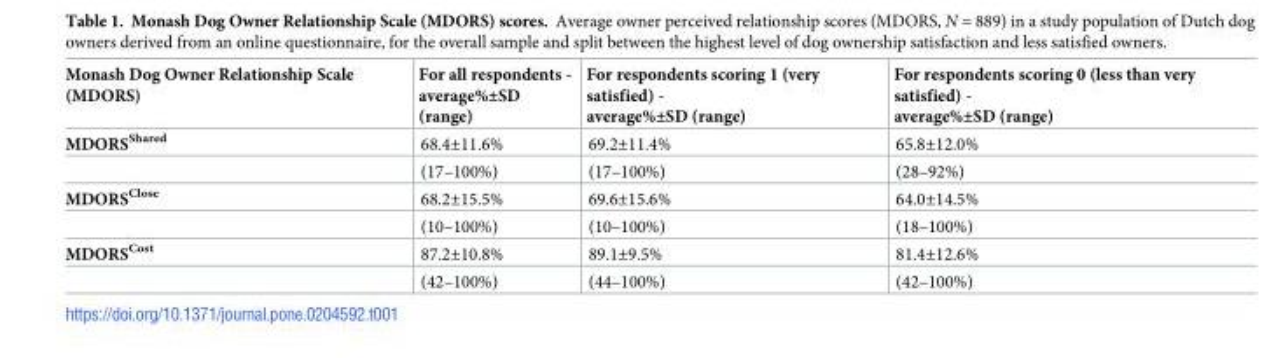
<table><thead><tr><td>Monash Dog Owner Relationship Scale (MDORS)</td><td>For all respondents - average%±SD (range)</td><td>For respondents scoring 1 (very satisfied) - average%±SD (range)</td><td>For respondents scoring 0 (less than very satisfied) - average%±SD (range)</td></tr></thead><tbody><tr><td rowspan="2">MDORS<sup>Shared</sup></td><td>68.4±11.6%</td><td>69.2±11.4%</td><td>65.8±12.0%</td></tr><tr><td>(17–100%)</td><td>(17–100%)</td><td>(28–92%)</td></tr><tr><td rowspan="2">MDORS<sup>Close</sup></td><td>68.2±15.5%</td><td>69.6±15.6%</td><td>64.0±14.5%</td></tr><tr><td>(10–100%)</td><td>(10–100%)</td><td>(18–100%)</td></tr><tr><td rowspan="2">MDORS<sup>Cost</sup></td><td>87.2±10.8%</td><td>89.1±9.5%</td><td>81.4±12.6%</td></tr><tr><td>(42–100%)</td><td>(44–100%)</td><td>(42–100%)</td></tr></tbody></table>